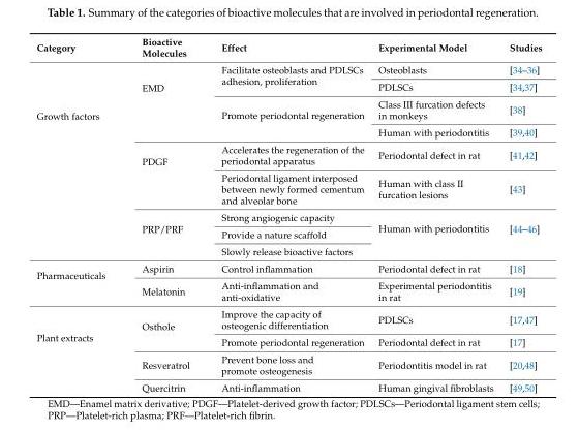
<table><thead><tr><td>Category</td><td>Bioactive Molecules</td><td>Effect</td><td>Experimental Model</td><td>Studies</td></tr></thead><tbody><tr><td rowspan="9">Growth factors</td><td rowspan="4">EMD</td><td rowspan="2">Facilitate osteoblasts and PDLSCs adhesion, proliferation</td><td>Osteoblasts</td><td>[34–36]</td></tr><tr><td>PDLSCs</td><td>[34,37]</td></tr><tr><td rowspan="2">Promote periodontal regeneration</td><td>Class III furcation defects in monkeys</td><td>[38]</td></tr><tr><td>Human with periodontitis</td><td>[39,40]</td></tr><tr><td rowspan="2">PDGF</td><td>Accelerates the regeneration of the periodontal apparatus</td><td>Periodontal defect in rat</td><td>[41,42]</td></tr><tr><td>Periodontal ligament interposed between newly formed cementum and alveolar bone</td><td>Human with class II furcation lesions</td><td>[43]</td></tr><tr><td rowspan="3">PRP/PRF</td><td>Strong angiogenic capacity</td><td rowspan="3">Human with periodontitis</td><td rowspan="3">[44–46]</td></tr><tr><td>Provide a nature scaffold</td></tr><tr><td>Slowly release bioactive factors</td></tr><tr><td rowspan="2">Pharmaceuticals</td><td>Aspirin</td><td>Control inflammation</td><td>Periodontal defect in rat</td><td>[18]</td></tr><tr><td>Melatonin</td><td>Anti-inflammation and anti-oxidative</td><td>Experimental periodontitis in rat</td><td>[19]</td></tr><tr><td rowspan="4">Plant extracts</td><td rowspan="2">Osthole</td><td>Improve the capacity of osteogenic differentiation</td><td>PDLSCs</td><td>[17,47]</td></tr><tr><td>Promote periodontal regeneration</td><td>Periodontal defect in rat</td><td>[17]</td></tr><tr><td>Resveratrol</td><td>Prevent bone loss and promote osteogenesis</td><td>Periodontitis model in rat</td><td>[20,48]</td></tr><tr><td>Quercitrin</td><td>Anti-inflammation</td><td>Human gingival fibroblasts</td><td>[49,50]</td></tr></tbody></table>